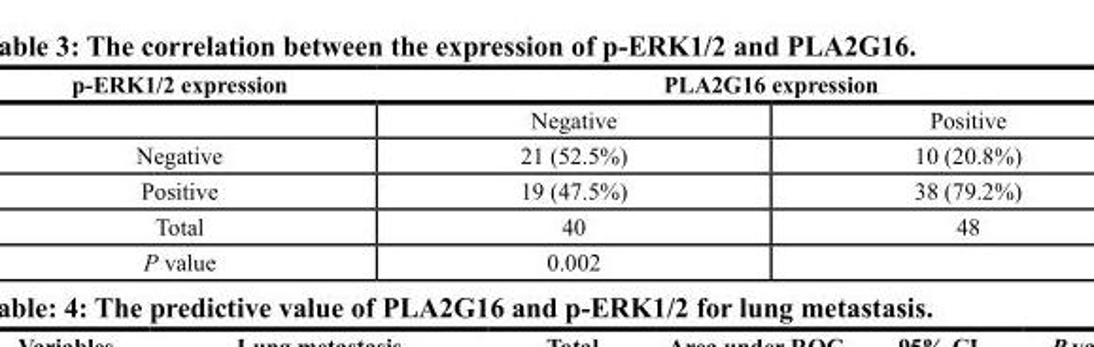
<table><thead><tr><td rowspan="2">p-ERK1/2 expression</td><td colspan="2">PLA2G16 expression</td></tr><tr><td>Negative</td><td>Positive</td></tr></thead><tbody><tr><td>Negative</td><td>21 (52.5%)</td><td>10 (20.8%)</td></tr><tr><td>Positive</td><td>19 (47.5%)</td><td>38 (79.2%)</td></tr><tr><td>Total</td><td>40</td><td>48</td></tr><tr><td>P value</td><td>0.002</td><td></td></tr></tbody></table>